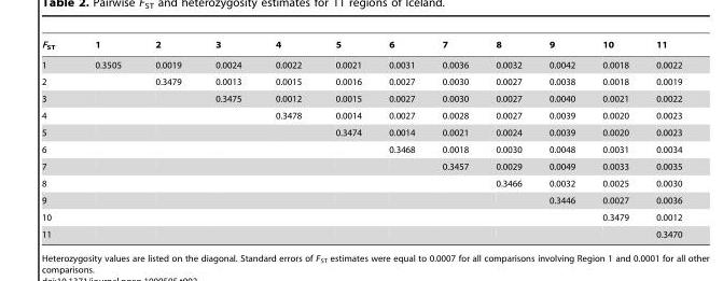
<table><thead><tr><td>F<sub>ST</sub></td><td>1</td><td>2</td><td>3</td><td>4</td><td>5</td><td>6</td><td>7</td><td>8</td><td>9</td><td>10</td><td>11</td></tr></thead><tbody><tr><td>1</td><td>0.3505</td><td>0.0019</td><td>0.0024</td><td>0.0022</td><td>0.0021</td><td>0.0031</td><td>0.0036</td><td>0.0032</td><td>0.0042</td><td>0.0018</td><td>0.0022</td></tr><tr><td>2</td><td></td><td>0.3479</td><td>0.0013</td><td>0.0015</td><td>0.0016</td><td>0.0027</td><td>0.0030</td><td>0.0027</td><td>0.0038</td><td>0.0018</td><td>0.0019</td></tr><tr><td>3</td><td></td><td></td><td>0.3475</td><td>0.0012</td><td>0.0015</td><td>0.0027</td><td>0.0030</td><td>0.0027</td><td>0.0040</td><td>0.0021</td><td>0.0022</td></tr><tr><td>4</td><td></td><td></td><td></td><td>0.3478</td><td>0.0014</td><td>0.0027</td><td>0.0028</td><td>0.0027</td><td>0.0039</td><td>0.0020</td><td>0.0023</td></tr><tr><td>5</td><td></td><td></td><td></td><td></td><td>0.3474</td><td>0.0014</td><td>0.0021</td><td>0.0024</td><td>0.0039</td><td>0.0020</td><td>0.0023</td></tr><tr><td>6</td><td></td><td></td><td></td><td></td><td></td><td>0.3468</td><td>0.0018</td><td>0.0030</td><td>0.0048</td><td>0.0031</td><td>0.0034</td></tr><tr><td>7</td><td></td><td></td><td></td><td></td><td></td><td></td><td>0.3457</td><td>0.0029</td><td>0.0049</td><td>0.0033</td><td>0.0035</td></tr><tr><td>8</td><td></td><td></td><td></td><td></td><td></td><td></td><td></td><td>0.3466</td><td>0.0032</td><td>0.0025</td><td>0.0030</td></tr><tr><td>9</td><td></td><td></td><td></td><td></td><td></td><td></td><td></td><td></td><td>0.3446</td><td>0.0027</td><td>0.0036</td></tr><tr><td>10</td><td></td><td></td><td></td><td></td><td></td><td></td><td></td><td></td><td></td><td>0.3479</td><td>0.0012</td></tr><tr><td>11</td><td></td><td></td><td></td><td></td><td></td><td></td><td></td><td></td><td></td><td></td><td>0.3470</td></tr></tbody></table>